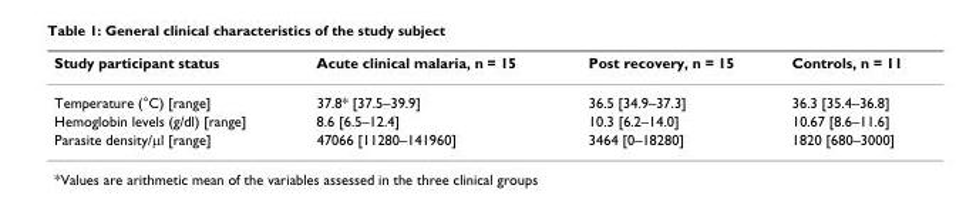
<table><thead><tr><td>Study participant status</td><td>Acute clinical malaria, n = 15</td><td>Post recovery, n = 15</td><td>Controls, n = 11</td></tr></thead><tbody><tr><td>Temperature (°C) [range]</td><td>37.8* [37.5–39.9]</td><td>36.5 [34.9–37.3]</td><td>36.3 [35.4–36.8]</td></tr><tr><td>Hemoglobin levels (g/dl) [range]</td><td>8.6 [6.5–12.4]</td><td>10.3 [6.2–14.0]</td><td>10.67 [8.6–11.6]</td></tr><tr><td>Parasite density/μl [range]</td><td>47066 [11280–141960]</td><td>3464 [0–18280]</td><td>1820 [680–3000]</td></tr></tbody></table>